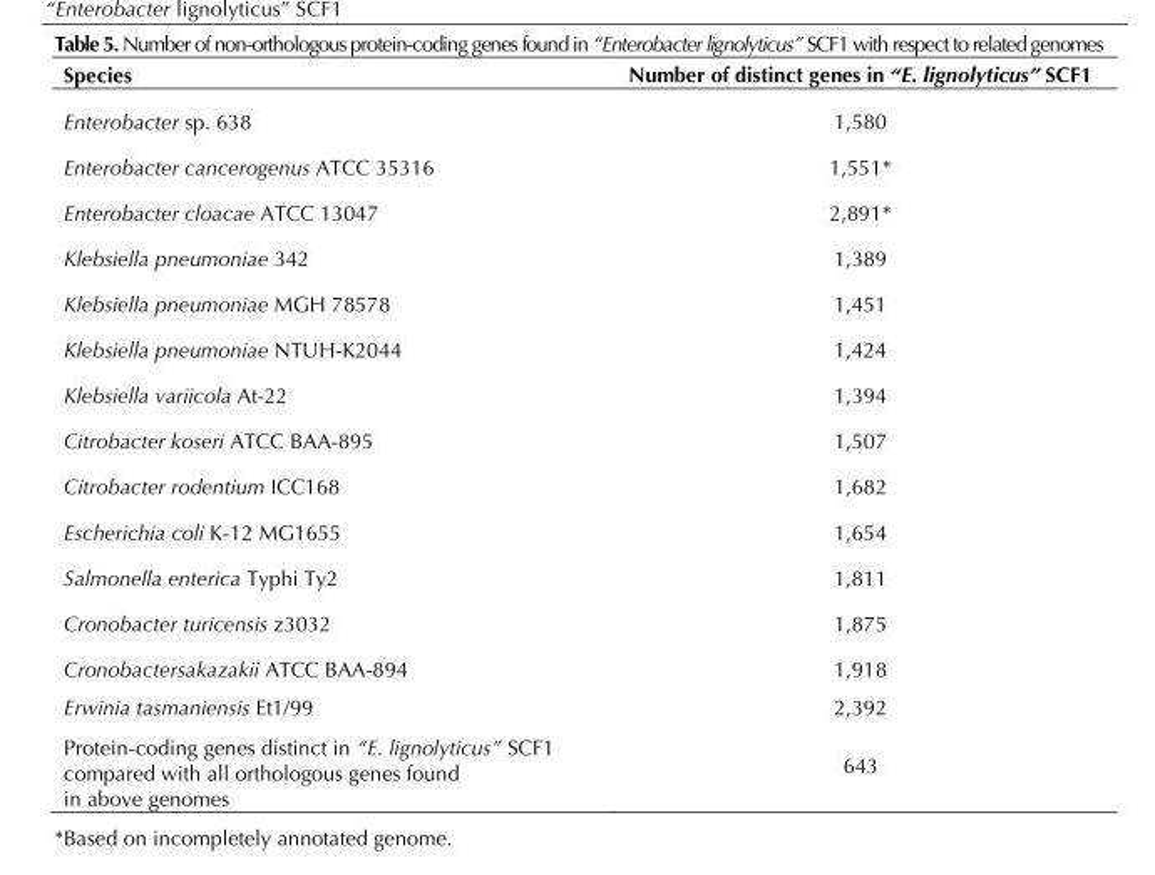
<table><thead><tr><td>Species</td><td>Number of distinct genes in “E. lignolyticus” SCF1</td></tr></thead><tbody><tr><td>Enterobacter sp. 638</td><td>1,580</td></tr><tr><td>Enterobacter cancerogenus ATCC 35316</td><td>1,551*</td></tr><tr><td>Enterobacter cloacae ATCC 13047</td><td>2,891*</td></tr><tr><td>Klebsiella pneumoniae 342</td><td>1,389</td></tr><tr><td>Klebsiella pneumoniae MGH 78578</td><td>1,451</td></tr><tr><td>Klebsiella pneumoniae NTUH-K2044</td><td>1,424</td></tr><tr><td>Klebsiella variicola At-22</td><td>1,394</td></tr><tr><td>Citrobacter koseri ATCC BAA-895</td><td>1,507</td></tr><tr><td>Citrobacter rodentium ICC168</td><td>1,682</td></tr><tr><td>Escherichia coli K-12 MG1655</td><td>1,654</td></tr><tr><td>Salmonella enterica Typhi Ty2</td><td>1,811</td></tr><tr><td>Cronobacter turicensis z3032</td><td>1,875</td></tr><tr><td>Cronobactersakazakii ATCC BAA-894</td><td>1,918</td></tr><tr><td>Erwinia tasmaniensis Et1/99</td><td>2,392</td></tr><tr><td>Protein-coding genes distinct in “E. lignolyticus” SCF1 compared with all orthologous genes found in above genomes</td><td>643</td></tr></tbody></table>